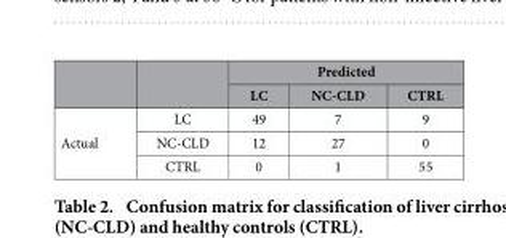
<table><thead><tr><td rowspan="2"></td><td rowspan="2"></td><td colspan="3">Predicted</td></tr><tr><td>LC</td><td>NC-CLD</td><td>CTRL</td></tr></thead><tbody><tr><td rowspan="3">Actual</td><td>LC</td><td>49</td><td>7</td><td>9</td></tr><tr><td>NC-CLD</td><td>12</td><td>27</td><td>0</td></tr><tr><td>CTRL</td><td>0</td><td>1</td><td>55</td></tr></tbody></table>